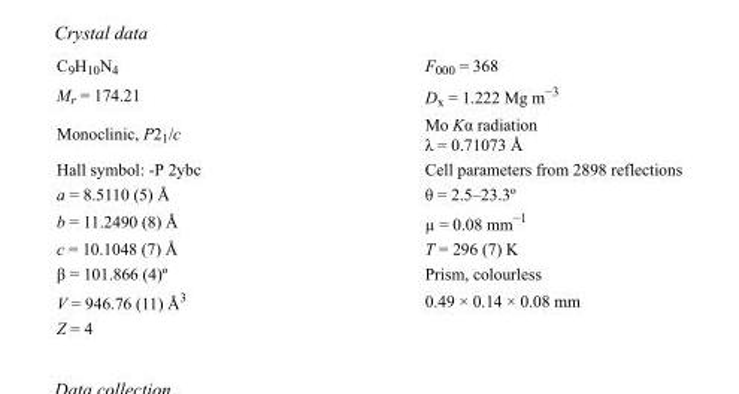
<table><tbody><tr><td>C<sub>9</sub>H<sub>10</sub>N<sub>4</sub></td><td>F<sub>000</sub> = 368</td></tr><tr><td>M<sub>r</sub> = 174.21</td><td>D<sub>x</sub> = 1.222 Mg m<sup>−3</sup></td></tr><tr><td>Monoclinic, P2<sub>1</sub>/c</td><td>Mo Kα radiation λ = 0.71073 Å</td></tr><tr><td>Hall symbol: -P 2ybc</td><td>Cell parameters from 2898 reflections</td></tr><tr><td>a = 8.5110 (5) Å</td><td>θ = 2.5–23.3º</td></tr><tr><td>b = 11.2490 (8) Å</td><td>µ = 0.08 mm<sup>−1</sup></td></tr><tr><td>c = 10.1048 (7) Å</td><td>T = 296 (7) K</td></tr><tr><td>β = 101.866 (4)º</td><td>Prism, colourless</td></tr><tr><td>V = 946.76 (11) Å<sup>3</sup></td><td>0.49 × 0.14 × 0.08 mm</td></tr><tr><td>Z = 4</td><td></td></tr></tbody></table>